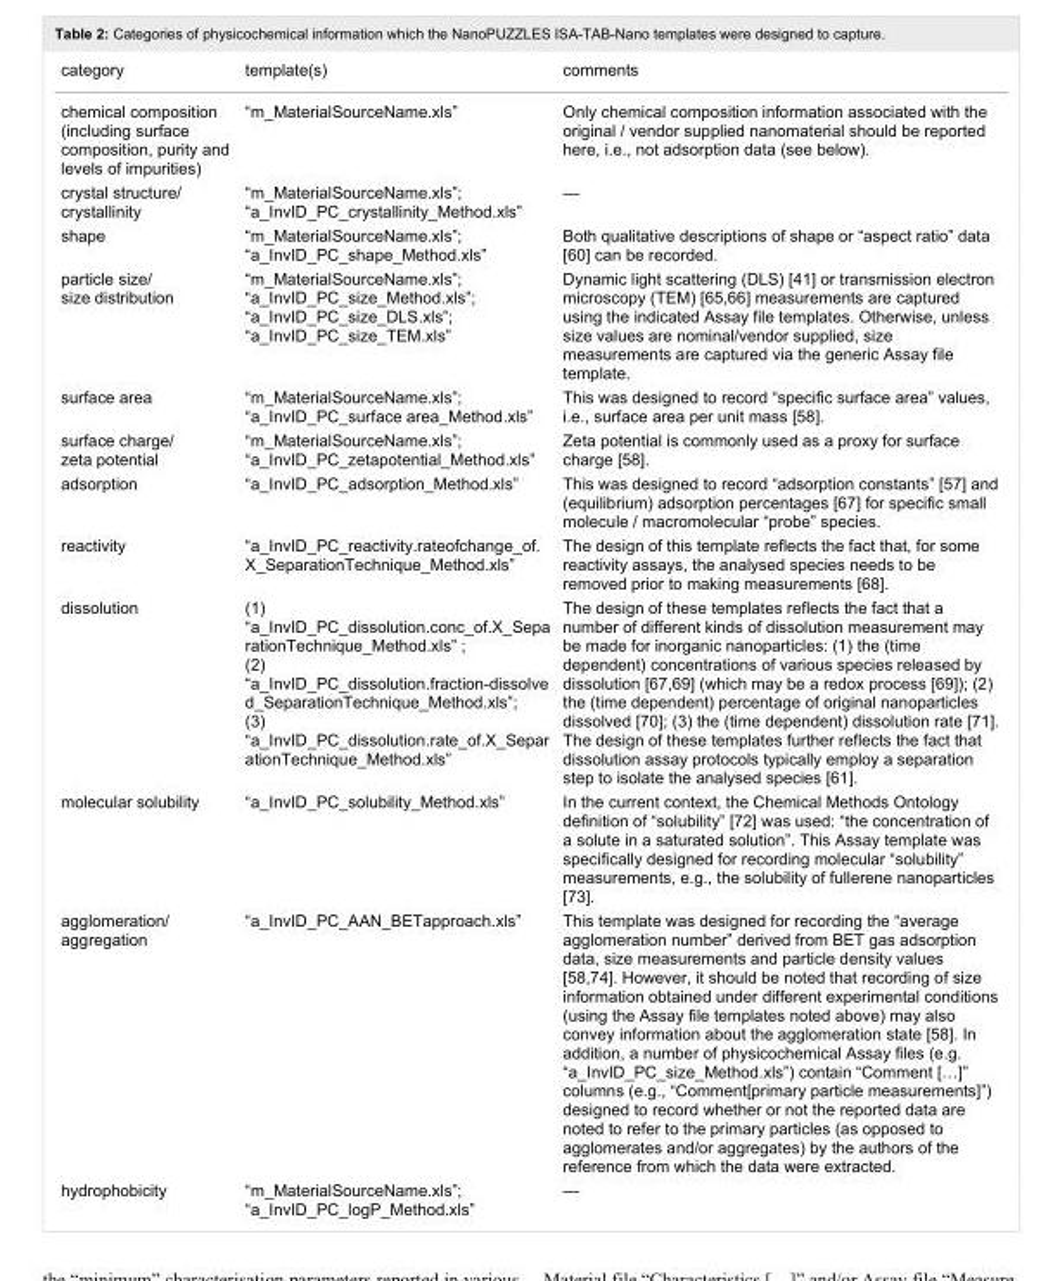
<table><tbody><tr><td>category</td><td>template(s)</td><td>comments</td></tr><tr><td>chemical composition (including surface composition, purity and levels of impurities)</td><td>“m_MaterialSourceName.xls”</td><td>Only chemical composition information associated with the original / vendor supplied nanomaterial should be reported here, i.e., not adsorption data (see below).</td></tr><tr><td>crystal structure/ crystallinity</td><td>“m_MaterialSourceName.xls”; “a_InvID_PC_crystallinity_Method.xls”</td><td>—</td></tr><tr><td>shape</td><td>“m_MaterialSourceName.xls”; “a_InvID_PC_shape_Method.xls”</td><td>Both qualitative descriptions of shape or “aspect ratio” data [60] can be recorded.</td></tr><tr><td>particle size/ size distribution</td><td>“m_MaterialSourceName.xls”; “a_InvID_PC_size_Method.xls”; “a_InvID_PC_size_DLS.xls”; “a_InvID_PC_size_TEM.xls”</td><td>Dynamic light scattering (DLS) [41] or transmission electron microscopy (TEM) [65–66] measurements are captured using the indicated Assay file templates. Otherwise, unless size values are nominal/vendor supplied, size measurements are captured via the generic Assay file template.</td></tr><tr><td>surface area</td><td>“m_MaterialSourceName.xls”; “a_InvID_PC_surface area_Method.xls”</td><td>This was designed to record “specific surface area” values, i.e., surface area per unit mass [58].</td></tr><tr><td>surface charge/ zeta potential</td><td>“m_MaterialSourceName.xls”; “a_InvID_PC_zetapotential_Method.xls”</td><td>Zeta potential is commonly used as a proxy for surface charge [58].</td></tr><tr><td>adsorption</td><td>“a_InvID_PC_adsorption_Method.xls”</td><td>This was designed to record “adsorption constants” [57] and (equilibrium) adsorption percentages [67] for specific small molecule / macromolecular “probe” species.</td></tr><tr><td>reactivity</td><td>“a_InvID_PC_reactivity.rateofchange_of. X_SeparationTechnique_Method.xls”</td><td>The design of this template reflects the fact that, for some reactivity assays, the analysed species needs to be removed prior to making measurements [68].</td></tr><tr><td>dissolution</td><td>(1) “a_InvID_PC_dissolution.conc_of.X_Sepa rationTechnique_Method.xls” ; (2) “a_InvID_PC_dissolution.fraction-dissolve d_SeparationTechnique_Method.xls”; (3) “a_InvID_PC_dissolution.rate_of.X_Separ ationTechnique_Method.xls”</td><td>The design of these templates reflects the fact that a number of different kinds of dissolution measurement may be made for inorganic nanoparticles: (1) the (time dependent) concentrations of various species released by dissolution [67,69] (which may be a redox process [69]); (2) the (time dependent) percentage of original nanoparticles dissolved [70]; (3) the (time dependent) dissolution rate [71]. The design of these templates further reflects the fact that dissolution assay protocols typically employ a separation step to isolate the analysed species [61].</td></tr><tr><td>molecular solubility</td><td>“a_InvID_PC_solubility_Method.xls”</td><td>In the current context, the Chemical Methods Ontology definition of “solubility” [72] was used: “the concentration of a solute in a saturated solution”. This Assay template was specifically designed for recording molecular “solubility” measurements, e.g., the solubility of fullerene nanoparticles [73].</td></tr><tr><td>agglomeration/ aggregation</td><td>“a_InvID_PC_AAN_BETapproach.xls”</td><td>This template was designed for recording the “average agglomeration number” derived from BET gas adsorption data, size measurements and particle density values [58,74]. However, it should be noted that recording of size information obtained under different experimental conditions (using the Assay file templates noted above) may also convey information about the agglomeration state [58]. In addition, a number of physicochemical Assay files (e.g. “a_InvID_PC_size_Method.xls”) contain “Comment […]” columns (e.g., “Comment[primary particle measurements]”) designed to record whether or not the reported data are noted to refer to the primary particles (as opposed to agglomerates and/or aggregates) by the authors of the reference from which the data were extracted.</td></tr><tr><td>hydrophobicity</td><td>“m_MaterialSourceName.xls”; “a_InvID_PC_logP_Method.xls”</td><td>—</td></tr></tbody></table>